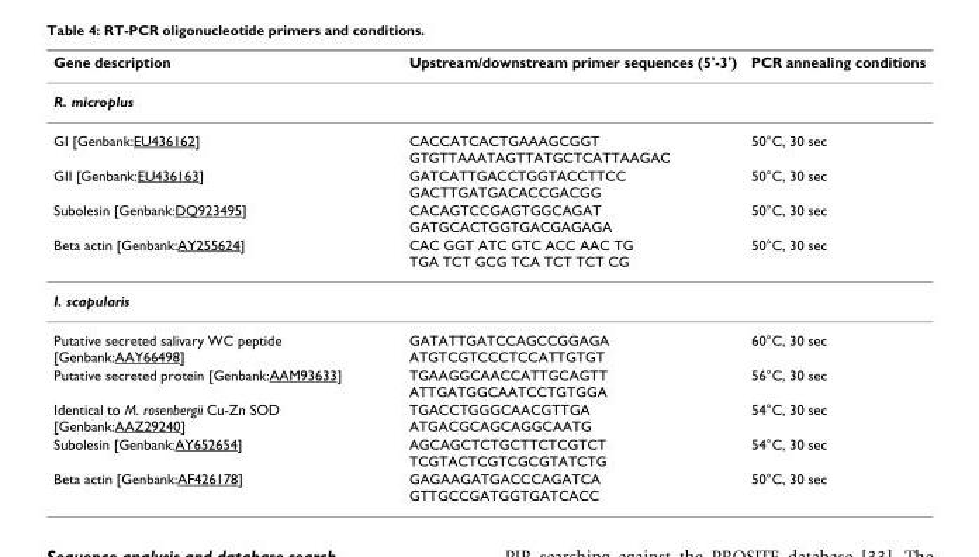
<table><thead><tr><td>Gene description</td><td>Upstream/downstream primer sequences (5&#x27;-3&#x27;)</td><td>PCR annealing conditions</td></tr></thead><tbody><tr><td colspan="3">R. microplus</td></tr><tr><td>GI [Genbank:EU436162]</td><td>CACCATCACTGAAAGCGGT GTGTTAAATAGTTATGCTCATTAAGAC</td><td>50°C, 30 sec</td></tr><tr><td>GII [Genbank:EU436163]</td><td>GATCATTGACCTGGTACCTTCC GACTTGATGACACCGACGG</td><td>50°C, 30 sec</td></tr><tr><td>Subolesin [Genbank:DQ923495]</td><td>CACAGTCCGAGTGGCAGAT GATGCACTGGTGACGAGAGA</td><td>50°C, 30 sec</td></tr><tr><td>Beta actin [Genbank:AY255624]</td><td>CAC GGT ATC GTC ACC AAC TG TGA TCT GCG TCA TCT TCT CG</td><td>50°C, 30 sec</td></tr><tr><td colspan="3">I. scapularis</td></tr><tr><td>Putative secreted salivary WC peptide [Genbank:AAY66498]</td><td>GATATTGATCCAGCCGGAGA ATGTCGTCCCTCCATTGTGT</td><td>60°C, 30 sec</td></tr><tr><td>Putative secreted protein [Genbank:AAM93633]</td><td>TGAAGGCAACCATTGCAGTT ATTGATGGCAATCCTGTGGA</td><td>56°C, 30 sec</td></tr><tr><td>Identical to M. rosenbergii Cu-Zn SOD [Genbank:AAZ29240]</td><td>TGACCTGGGCAACGTTGA ATGACGCAGCAGGCAATG</td><td>54°C, 30 sec</td></tr><tr><td>Subolesin [Genbank:AY652654]</td><td>AGCAGCTCTGCTTCTCGTCT TCGTACTCGTCGCGTATCTG</td><td>54°C, 30 sec</td></tr><tr><td>Beta actin [Genbank:AF426178]</td><td>GAGAAGATGACCCAGATCA GTTGCCGATGGTGATCACC</td><td>50°C, 30 sec</td></tr></tbody></table>